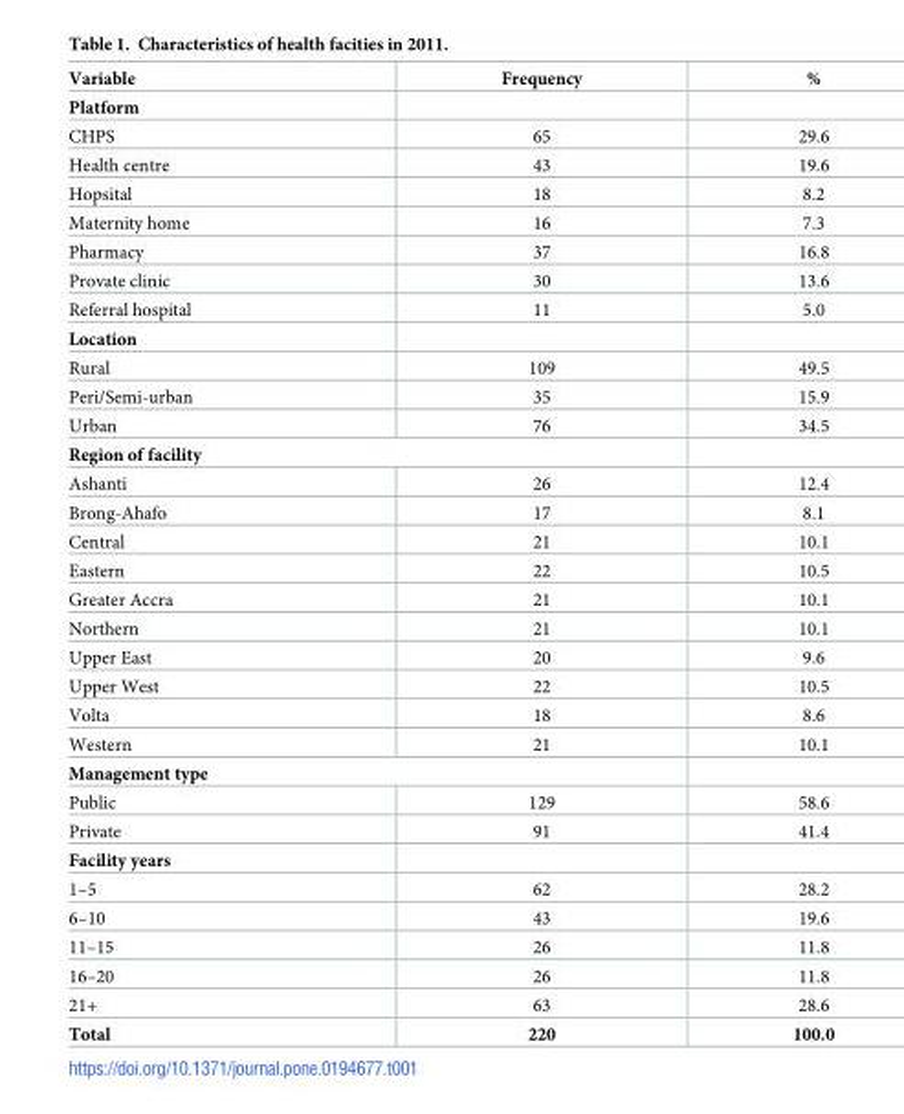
<table><thead><tr><td>Variable</td><td>Frequency</td><td>%</td></tr></thead><tbody><tr><td colspan="3">Platform</td></tr><tr><td>CHPS</td><td>65</td><td>29.6</td></tr><tr><td>Health centre</td><td>43</td><td>19.6</td></tr><tr><td>Hopsital</td><td>18</td><td>8.2</td></tr><tr><td>Maternity home</td><td>16</td><td>7.3</td></tr><tr><td>Pharmacy</td><td>37</td><td>16.8</td></tr><tr><td>Provate clinic</td><td>30</td><td>13.6</td></tr><tr><td>Referral hospital</td><td>11</td><td>5.0</td></tr><tr><td colspan="3">Location</td></tr><tr><td>Rural</td><td>109</td><td>49.5</td></tr><tr><td>Peri/Semi-urban</td><td>35</td><td>15.9</td></tr><tr><td>Urban</td><td>76</td><td>34.5</td></tr><tr><td colspan="3">Region of facility</td></tr><tr><td>Ashanti</td><td>26</td><td>12.4</td></tr><tr><td>Brong-Ahafo</td><td>17</td><td>8.1</td></tr><tr><td>Central</td><td>21</td><td>10.1</td></tr><tr><td>Eastern</td><td>22</td><td>10.5</td></tr><tr><td>Greater Accra</td><td>21</td><td>10.1</td></tr><tr><td>Northern</td><td>21</td><td>10.1</td></tr><tr><td>Upper East</td><td>20</td><td>9.6</td></tr><tr><td>Upper West</td><td>22</td><td>10.5</td></tr><tr><td>Volta</td><td>18</td><td>8.6</td></tr><tr><td>Western</td><td>21</td><td>10.1</td></tr><tr><td colspan="3">Management type</td></tr><tr><td>Public</td><td>129</td><td>58.6</td></tr><tr><td>Private</td><td>91</td><td>41.4</td></tr><tr><td colspan="3">Facility years</td></tr><tr><td>1–5</td><td>62</td><td>28.2</td></tr><tr><td>6–10</td><td>43</td><td>19.6</td></tr><tr><td>11–15</td><td>26</td><td>11.8</td></tr><tr><td>16–20</td><td>26</td><td>11.8</td></tr><tr><td>21+</td><td>63</td><td>28.6</td></tr><tr><td>Total</td><td>220</td><td>100.0</td></tr></tbody></table>